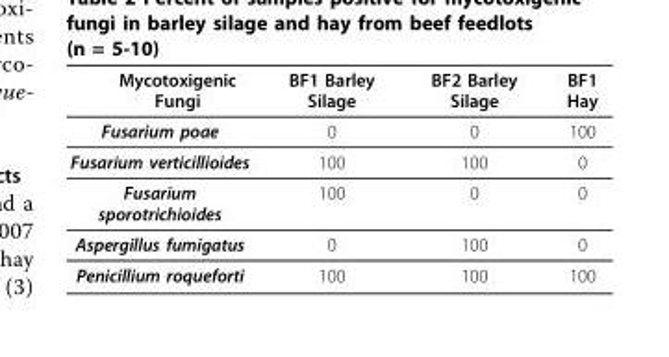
<table><thead><tr><td>Mycotoxigenic Fungi</td><td>BF1 Barley Silage</td><td>BF2 Barley Silage</td><td>BF1 Hay</td></tr></thead><tbody><tr><td>Fusarium poae</td><td>0</td><td>0</td><td>100</td></tr><tr><td>Fusarium verticillioides</td><td>100</td><td>100</td><td>0</td></tr><tr><td>Fusarium sporotrichioides</td><td>100</td><td>0</td><td>0</td></tr><tr><td>Aspergillus fumigatus</td><td>0</td><td>100</td><td>0</td></tr><tr><td>Penicillium roqueforti</td><td>100</td><td>100</td><td>100</td></tr></tbody></table>